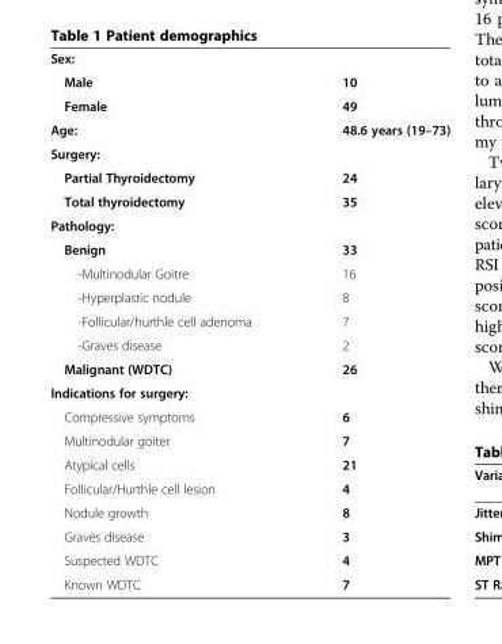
<table><tbody><tr><td colspan="2">Sex:</td></tr><tr><td>Male</td><td>10</td></tr><tr><td>Female</td><td>49</td></tr><tr><td>Age:</td><td>48.6 years (19–73)</td></tr><tr><td colspan="2">Surgery:</td></tr><tr><td>Partial Thyroidectomy</td><td>24</td></tr><tr><td>Total thyroidectomy</td><td>35</td></tr><tr><td colspan="2">Pathology:</td></tr><tr><td>Benign</td><td>33</td></tr><tr><td>-Multinodular Goitre</td><td>16</td></tr><tr><td>-Hyperplastic nodule</td><td>8</td></tr><tr><td>-Follicular/hurthle cell adenoma</td><td>7</td></tr><tr><td>-Graves disease</td><td>2</td></tr><tr><td>Malignant (WDTC)</td><td>26</td></tr><tr><td colspan="2">Indications for surgery:</td></tr><tr><td>Compressive symptoms</td><td>6</td></tr><tr><td>Multinodular goiter</td><td>7</td></tr><tr><td>Atypical cells</td><td>21</td></tr><tr><td>Follicular/Hurthle cell lesion</td><td>4</td></tr><tr><td>Nodule growth</td><td>8</td></tr><tr><td>Graves disease</td><td>3</td></tr><tr><td>Suspected WDTC</td><td>4</td></tr><tr><td>Known WDTC</td><td>7</td></tr></tbody></table>